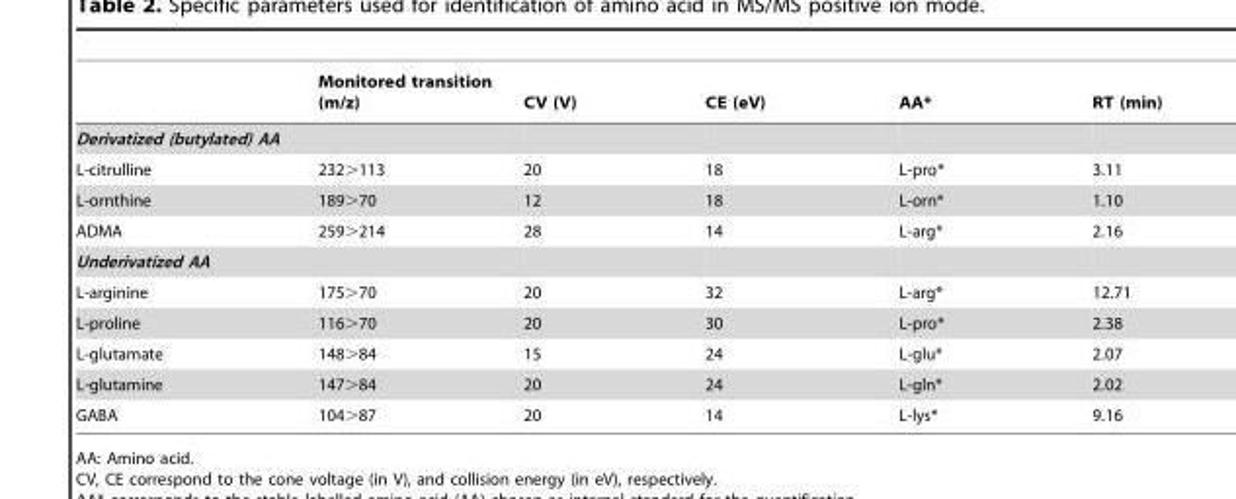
<table><thead><tr><td></td><td>Monitored transition (m/z)</td><td>CV (V)</td><td>CE (eV)</td><td>AA*</td><td>RT (min)</td></tr></thead><tbody><tr><td colspan="6">Derivatized (butylated) AA</td></tr><tr><td>L-citrulline</td><td>232&gt;113</td><td>20</td><td>18</td><td>L-pro*</td><td>3.11</td></tr><tr><td>L-ornthine</td><td>189&gt;70</td><td>12</td><td>18</td><td>L-orn*</td><td>1.10</td></tr><tr><td>ADMA</td><td>259&gt;214</td><td>28</td><td>14</td><td>L-arg*</td><td>2.16</td></tr><tr><td colspan="6">Underivatized AA</td></tr><tr><td>L-arginine</td><td>175&gt;70</td><td>20</td><td>32</td><td>L-arg*</td><td>12.71</td></tr><tr><td>L-proline</td><td>116&gt;70</td><td>20</td><td>30</td><td>L-pro*</td><td>2.38</td></tr><tr><td>L-glutamate</td><td>148&gt;84</td><td>15</td><td>24</td><td>L-glu*</td><td>2.07</td></tr><tr><td>L-glutamine</td><td>147&gt;84</td><td>20</td><td>24</td><td>L-gln*</td><td>2.02</td></tr><tr><td>GABA</td><td>104&gt;87</td><td>20</td><td>14</td><td>L-lys*</td><td>9.16</td></tr></tbody></table>